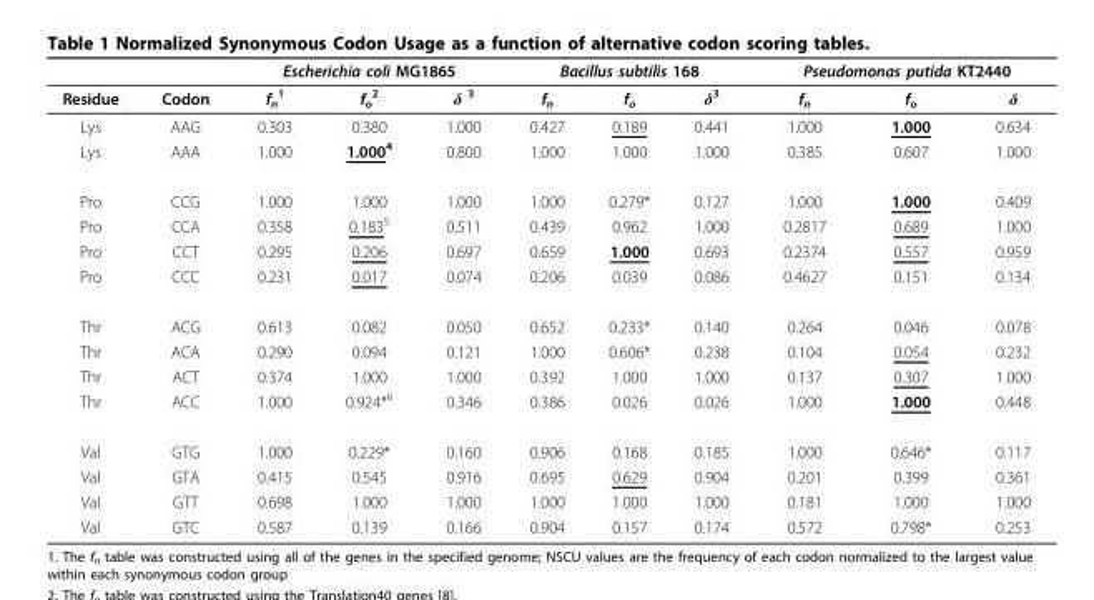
<table><thead><tr><td rowspan="2">Residue</td><td rowspan="2">Codon</td><td colspan="3">Escherichia coli MG1865</td><td colspan="3">Bacillus subtilis 168</td><td colspan="3">Pseudomonas putida KT2440</td></tr><tr><td>f<sub>n</sub> <sup>1</sup></td><td>f<sub>o</sub> <sup>2</sup></td><td>δ <sup>3</sup></td><td>f<sub>n</sub></td><td>f<sub>o</sub></td><td>δ<sup>3</sup></td><td>f<sub>n</sub></td><td>f<sub>o</sub></td><td>δ</td></tr></thead><tbody><tr><td>Lys</td><td>AAG</td><td>0.303</td><td>0.380</td><td>1.000</td><td>0.427</td><td>0.189</td><td>0.441</td><td>1.000</td><td>1.000</td><td>0.634</td></tr><tr><td>Lys</td><td>AAA</td><td>1.000</td><td>1.000<sup>4</sup></td><td>0.800</td><td>1.000</td><td>1.000</td><td>1.000</td><td>0.385</td><td>0.607</td><td>1.000</td></tr><tr><td>Pro</td><td>CCG</td><td>1.000</td><td>1.000</td><td>1.000</td><td>1.000</td><td>0.279*</td><td>0.127</td><td>1.000</td><td>1.000</td><td>0.409</td></tr><tr><td>Pro</td><td>CCA</td><td>0.358</td><td>0.183<sup>5</sup></td><td>0.511</td><td>0.439</td><td>0.962</td><td>1.000</td><td>0.2817</td><td>0.689</td><td>1.000</td></tr><tr><td>Pro</td><td>CCT</td><td>0.295</td><td>0.206</td><td>0.697</td><td>0.659</td><td>1.000</td><td>0.693</td><td>0.2374</td><td>0.557</td><td>0.959</td></tr><tr><td>Pro</td><td>CCC</td><td>0.231</td><td>0.017</td><td>0.074</td><td>0.206</td><td>0.039</td><td>0.086</td><td>0.4627</td><td>0.151</td><td>0.134</td></tr><tr><td>Thr</td><td>ACG</td><td>0.613</td><td>0.082</td><td>0.050</td><td>0.652</td><td>0.233*</td><td>0.140</td><td>0.264</td><td>0.046</td><td>0.078</td></tr><tr><td>Thr</td><td>ACA</td><td>0.290</td><td>0.094</td><td>0.121</td><td>1.000</td><td>0.606*</td><td>0.238</td><td>0.104</td><td>0.054</td><td>0.232</td></tr><tr><td>Thr</td><td>ACT</td><td>0.374</td><td>1.000</td><td>1.000</td><td>0.392</td><td>1.000</td><td>1.000</td><td>0.137</td><td>0.307</td><td>1.000</td></tr><tr><td>Thr</td><td>ACC</td><td>1.000</td><td>0.924*<sup>6</sup></td><td>0.346</td><td>0.386</td><td>0.026</td><td>0.026</td><td>1.000</td><td>1.000</td><td>0.448</td></tr><tr><td>Val</td><td>GTG</td><td>1.000</td><td>0.229*</td><td>0.160</td><td>0.906</td><td>0.168</td><td>0.185</td><td>1.000</td><td>0.646*</td><td>0.117</td></tr><tr><td>Val</td><td>GTA</td><td>0.415</td><td>0.545</td><td>0.916</td><td>0.695</td><td>0.629</td><td>0.904</td><td>0.201</td><td>0.399</td><td>0.361</td></tr><tr><td>Val</td><td>GTT</td><td>0.698</td><td>1.000</td><td>1.000</td><td>1.000</td><td>1.000</td><td>1.000</td><td>0.181</td><td>1.000</td><td>1.000</td></tr><tr><td>Val</td><td>GTC</td><td>0.587</td><td>0.139</td><td>0.166</td><td>0.904</td><td>0.157</td><td>0.174</td><td>0.572</td><td>0.798*</td><td>0.253</td></tr></tbody></table>